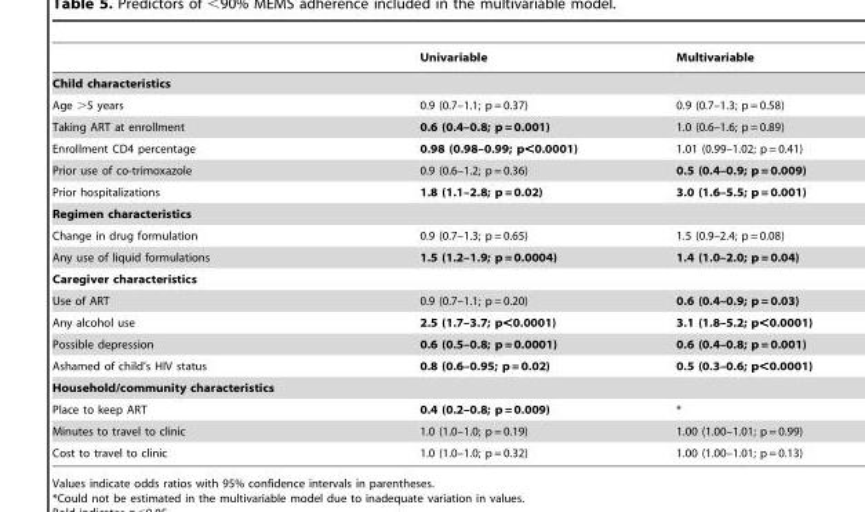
<table><thead><tr><td></td><td>Univariable</td><td>Multivariable</td></tr></thead><tbody><tr><td colspan="3">Child characteristics</td></tr><tr><td>Age &gt;5 years</td><td>0.9 (0.7–1.1; p = 0.37)</td><td>0.9 (0.7–1.3; p = 0.58)</td></tr><tr><td>Taking ART at enrollment</td><td>0.6 (0.4–0.8; p = 0.001)</td><td>1.0 (0.6–1.6; p = 0.89)</td></tr><tr><td>Enrollment CD4 percentage</td><td>0.98 (0.98–0.99; p&lt;0.0001)</td><td>1.01 (0.99–1.02; p = 0.41)</td></tr><tr><td>Prior use of co-trimoxazole</td><td>0.9 (0.6–1.2; p = 0.36)</td><td>0.5 (0.4–0.9; p = 0.009)</td></tr><tr><td>Prior hospitalizations</td><td>1.8 (1.1–2.8; p = 0.02)</td><td>3.0 (1.6–5.5; p = 0.001)</td></tr><tr><td colspan="3">Regimen characteristics</td></tr><tr><td>Change in drug formulation</td><td>0.9 (0.7–1.3; p = 0.65)</td><td>1.5 (0.9–2.4; p = 0.08)</td></tr><tr><td>Any use of liquid formulations</td><td>1.5 (1.2–1.9; p = 0.0004)</td><td>1.4 (1.0–2.0; p = 0.04)</td></tr><tr><td colspan="3">Caregiver characteristics</td></tr><tr><td>Use of ART</td><td>0.9 (0.7–1.1; p = 0.20)</td><td>0.6 (0.4–0.9; p = 0.03)</td></tr><tr><td>Any alcohol use</td><td>2.5 (1.7–3.7; p&lt;0.0001)</td><td>3.1 (1.8–5.2; p&lt;0.0001)</td></tr><tr><td>Possible depression</td><td>0.6 (0.5–0.8; p = 0.0001)</td><td>0.6 (0.4–0.8; p = 0.001)</td></tr><tr><td>Ashamed of child’s HIV status</td><td>0.8 (0.6–0.95; p = 0.02)</td><td>0.5 (0.3–0.6; p&lt;0.0001)</td></tr><tr><td colspan="3">Household/community characteristics</td></tr><tr><td>Place to keep ART</td><td>0.4 (0.2–0.8; p = 0.009)</td><td>*</td></tr><tr><td>Minutes to travel to clinic</td><td>1.0 (1.0–1.0; p = 0.19)</td><td>1.00 (1.00–1.01; p = 0.99)</td></tr><tr><td>Cost to travel to clinic</td><td>1.0 (1.0–1.0; p = 0.32)</td><td>1.00 (1.00–1.01; p = 0.13)</td></tr></tbody></table>